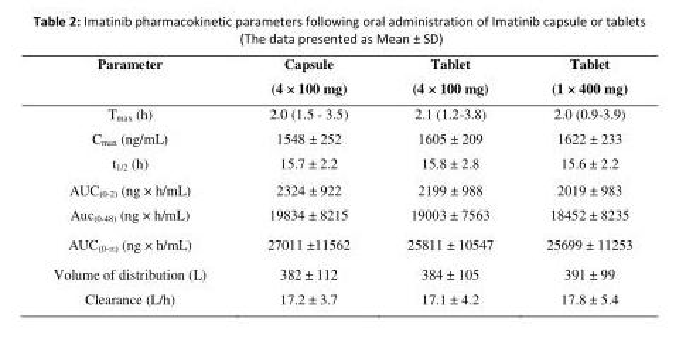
<table><thead><tr><td>Parameter</td><td>Capsule (4 × 100 mg)</td><td>Tablet (4 × 100 mg)</td><td>Tablet (1 × 400 mg)</td></tr></thead><tbody><tr><td>T<sub>max</sub> (h)</td><td>2.0 (1.5 - 3.5)</td><td>2.1 (1.2-3.8)</td><td>2.0 (0.9-3.9)</td></tr><tr><td>C<sub>max</sub> (ng/mL)</td><td>1548 ± 252</td><td>1605 ± 209</td><td>1622 ± 233</td></tr><tr><td>t<sub>1/2</sub> (h)</td><td>15.7 ± 2.2</td><td>15.8 ± 2.8</td><td>15.6 ± 2.2</td></tr><tr><td>AUC<sub>(0-2)</sub> (ng × h/mL)</td><td>2324 ± 922</td><td>2199 ± 988</td><td>2019 ± 983</td></tr><tr><td>Auc<sub>(0-48)</sub> (ng × h/mL)</td><td>19834 ± 8215</td><td>19003 ± 7563</td><td>18452 ± 8235</td></tr><tr><td>AUC<sub>(0-∞)</sub> (ng × h/mL)</td><td>27011 ±11562</td><td>25811 ± 10547</td><td>25699 ± 11253</td></tr><tr><td>Volume of distribution (L)</td><td>382 ± 112</td><td>384 ± 105</td><td>391 ± 99</td></tr><tr><td>Clearance (L/h)</td><td>17.2 ± 3.7</td><td>17.1 ± 4.2</td><td>17.8 ± 5.4</td></tr></tbody></table>